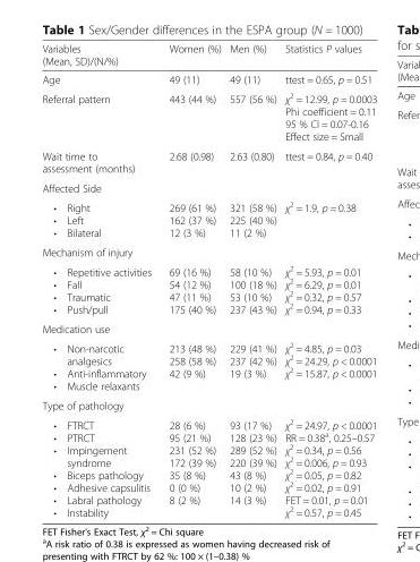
<table><thead><tr><td>Variables (Mean, SD)/(N/%)</td><td>Women (%)</td><td>Men (%)</td><td>Statistics P values</td></tr></thead><tbody><tr><td>Age</td><td>49 (11)</td><td>49 (11)</td><td>ttest = 0.65, p = 0.51</td></tr><tr><td>Referral pattern</td><td>443 (44 %)</td><td>557 (56 %)</td><td>χ<sup>2</sup> = 12.99, p = 0.0003 Phi coefficient = 0.11 95 % CI = 0.07-0.16 Effect size = Small</td></tr><tr><td>Wait time to assessment (months)</td><td>2.68 (0.98)</td><td>2.63 (0.80)</td><td>ttest = 0.84, p = 0.40</td></tr><tr><td colspan="4">Affected Side</td></tr><tr><td>• Right • Left • Bilateral</td><td>269 (61 %) 162 (37 %) 12 (3 %)</td><td>321 (58 %) 225 (40 %) 11 (2 %)</td><td>χ<sup>2</sup> = 1.9, p = 0.38</td></tr><tr><td colspan="4">Mechanism of injury</td></tr><tr><td>• Repetitive activities • Fall • Traumatic • Push/pull</td><td>69 (16 %) 54 (12 %) 47 (11 %) 175 (40 %)</td><td>58 (10 %) 100 (18 %) 53 (10 %) 237 (43 %)</td><td>χ<sup>2</sup> = 5.93, p = 0.01 χ<sup>2</sup> = 6.29, p = 0.01 χ<sup>2</sup> = 0.32, p = 0.57 χ<sup>2</sup> = 0.94, p = 0.33</td></tr><tr><td colspan="4">Medication use</td></tr><tr><td>• Non-narcotic analgesics • Anti-inflammatory • Muscle relaxants</td><td>213 (48 %) 258 (58 %) 42 (9 %)</td><td>229 (41 %) 237 (42 %) 19 (3 %)</td><td>χ<sup>2</sup> = 4.85, p = 0.03 χ<sup>2</sup> = 24.29, p &lt; 0.0001 χ<sup>2</sup> = 15.87, p &lt; 0.0001</td></tr><tr><td colspan="4">Type of pathology</td></tr><tr><td>• FTRCT • PTRCT • Impingement syndrome • Biceps pathology • Adhesive capsulitis • Labral pathology • Instability</td><td>28 (6 %) 95 (21 %) 231 (52 %) 172 (39 %) 35 (8 %) 0 (0 %) 8 (2 %)</td><td>93 (17 %) 128 (23 %) 289 (52 %) 220 (39 %) 43 (8 %) 10 (2 %) 14 (3 %)</td><td>χ<sup>2</sup> = 24.97, p &lt; 0.0001 RR = 0.38<sup>a</sup>, 0.25–0.57 χ<sup>2</sup> = 0.34, p = 0.56 χ<sup>2</sup> = 0.006, p = 0.93 χ<sup>2</sup> = 0.05, p = 0.82 χ<sup>2</sup> = 0.02, p = 0.91 FET = 0.01, p = 0.01 χ<sup>2</sup> = 0.57, p = 0.45</td></tr></tbody></table>